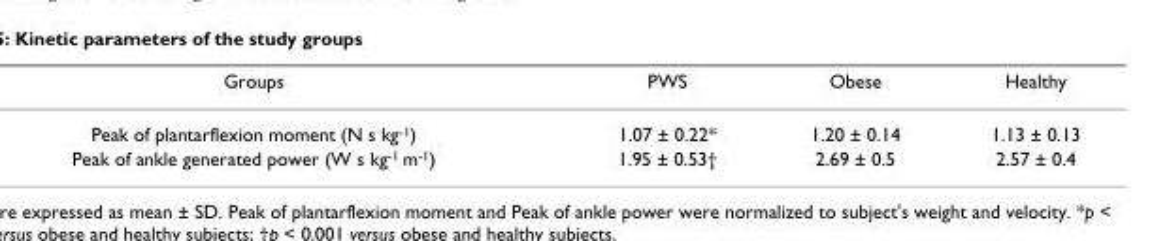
<table><thead><tr><td>Groups</td><td>PWS</td><td>Obese</td><td>Healthy</td></tr></thead><tbody><tr><td>Peak of plantarflexion moment (N s kg<sup>-1</sup>)</td><td>1.07 ± 0.22*</td><td>1.20 ± 0.14</td><td>1.13 ± 0.13</td></tr><tr><td>Peak of ankle generated power (W s kg<sup>-1</sup> m<sup>-1</sup>)</td><td>1.95 ± 0.53†</td><td>2.69 ± 0.5</td><td>2.57 ± 0.4</td></tr></tbody></table>